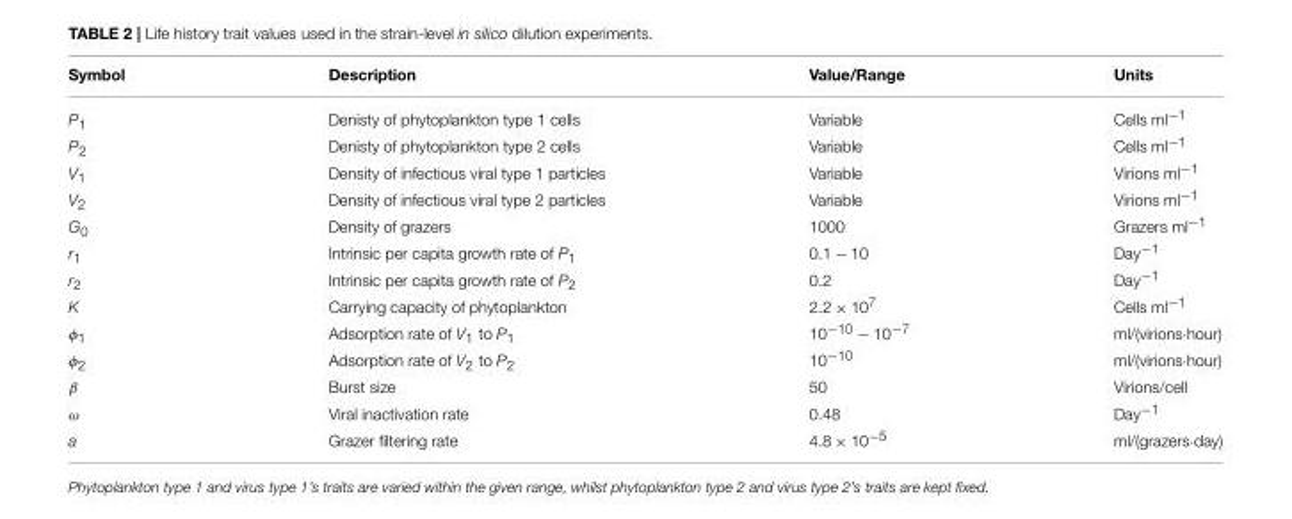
<table><thead><tr><td>Symbol</td><td>Description</td><td>Value/Range</td><td>Units</td></tr></thead><tbody><tr><td>P<sub>1</sub></td><td>Denisty of phytoplankton type 1 cells</td><td>Variable</td><td>Cells ml<sup>−1</sup></td></tr><tr><td>P<sub>2</sub></td><td>Denisty of phytoplankton type 2 cells</td><td>Variable</td><td>Cells ml<sup>−1</sup></td></tr><tr><td>V<sub>1</sub></td><td>Density of infectious viral type 1 particles</td><td>Variable</td><td>Virions ml<sup>−1</sup></td></tr><tr><td>V<sub>2</sub></td><td>Density of infectious viral type 2 particles</td><td>Variable</td><td>Virions ml<sup>−1</sup></td></tr><tr><td>G<sub>0</sub></td><td>Density of grazers</td><td>1000</td><td>Grazers ml<sup>−1</sup></td></tr><tr><td>r<sub>1</sub></td><td>Intrinsic per capita growth rate of P<sub>1</sub></td><td>0.1 − 10</td><td>Day<sup>−1</sup></td></tr><tr><td>r<sub>2</sub></td><td>Intrinsic per capita growth rate of P<sub>2</sub></td><td>0.2</td><td>Day<sup>−1</sup></td></tr><tr><td>K</td><td>Carrying capacity of phytoplankton</td><td>2.2 × 10<sup>7</sup></td><td>Cells ml<sup>−1</sup></td></tr><tr><td>φ<sub>1</sub></td><td>Adsorption rate of V<sub>1</sub> to P<sub>1</sub></td><td>10<sup>−10</sup> − 10<sup>−7</sup></td><td>ml/(virions·hour)</td></tr><tr><td>φ<sub>2</sub></td><td>Adsorption rate of V<sub>2</sub> to P<sub>2</sub></td><td>10<sup>−10</sup></td><td>ml/(virions·hour)</td></tr><tr><td>β</td><td>Burst size</td><td>50</td><td>Virions/cell</td></tr><tr><td>ω</td><td>Viral inactivation rate</td><td>0.48</td><td>Day<sup>−1</sup></td></tr><tr><td>a</td><td>Grazer filtering rate</td><td>4.8 × 10<sup>−5</sup></td><td>ml/(grazers·day)</td></tr></tbody></table>